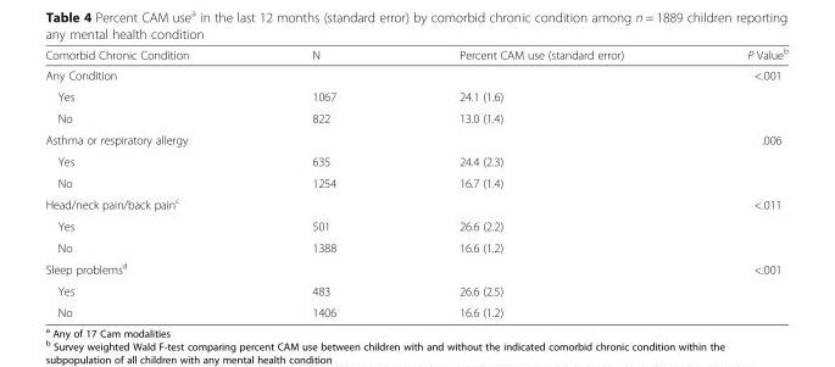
<table><thead><tr><td>Comorbid Chronic Condition</td><td>N</td><td>Percent CAM use (standard error)</td><td>P Value<sup>b</sup></td></tr></thead><tbody><tr><td>Any Condition</td><td></td><td></td><td>&lt;.001</td></tr><tr><td>Yes</td><td>1067</td><td>24.1 (1.6)</td><td></td></tr><tr><td>No</td><td>822</td><td>13.0 (1.4)</td><td></td></tr><tr><td>Asthma or respiratory allergy</td><td></td><td></td><td>.006</td></tr><tr><td>Yes</td><td>635</td><td>24.4 (2.3)</td><td></td></tr><tr><td>No</td><td>1254</td><td>16.7 (1.4)</td><td></td></tr><tr><td>Head/neck pain/back pain<sup>c</sup></td><td></td><td></td><td>&lt;.011</td></tr><tr><td>Yes</td><td>501</td><td>26.6 (2.2)</td><td></td></tr><tr><td>No</td><td>1388</td><td>16.6 (1.2)</td><td></td></tr><tr><td>Sleep problems<sup>d</sup></td><td></td><td></td><td>&lt;.001</td></tr><tr><td>Yes</td><td>483</td><td>26.6 (2.5)</td><td></td></tr><tr><td>No</td><td>1406</td><td>16.6 (1.2)</td><td></td></tr></tbody></table>